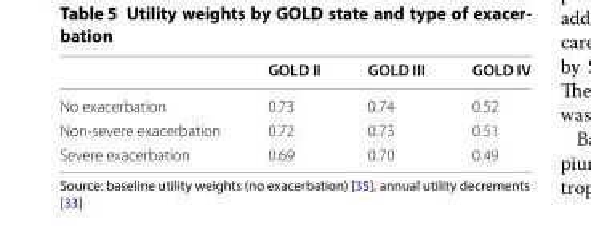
<table><thead><tr><td></td><td>GOLD II</td><td>GOLD III</td><td>GOLD IV</td></tr></thead><tbody><tr><td>No exacerbation</td><td>0.73</td><td>0.74</td><td>0.52</td></tr><tr><td>Non-severe exacerbation</td><td>0.72</td><td>0.73</td><td>0.51</td></tr><tr><td>Severe exacerbation</td><td>0.69</td><td>0.70</td><td>0.49</td></tr></tbody></table>